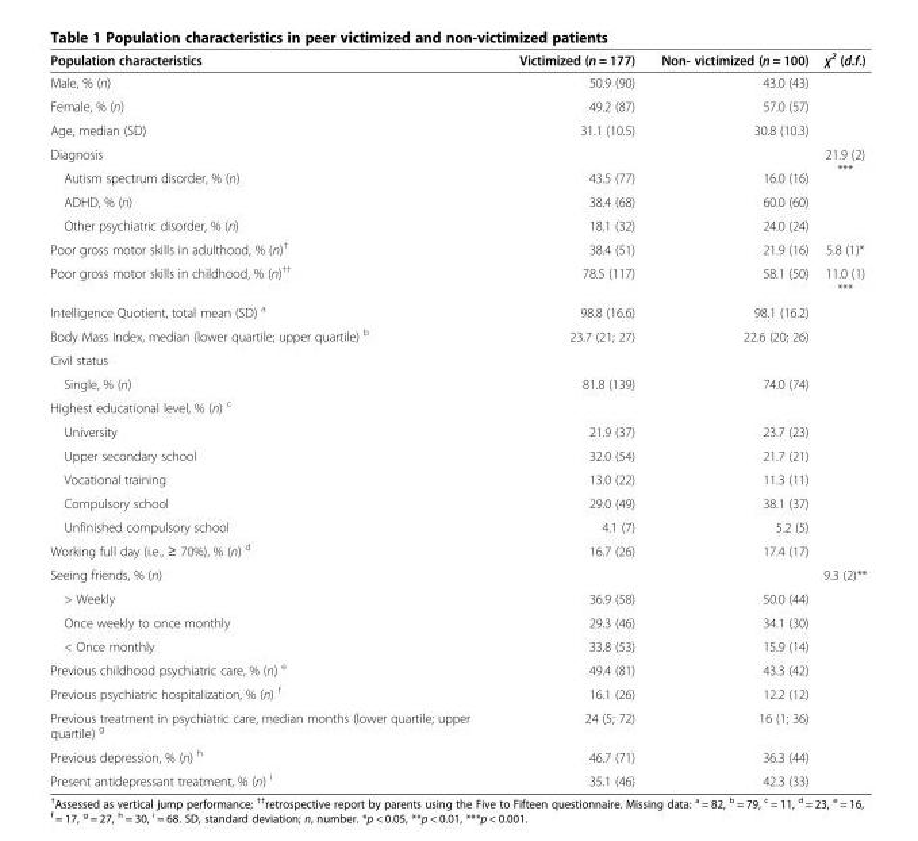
<table><thead><tr><td>Population characteristics</td><td>Victimized (n = 177)</td><td>Non- victimized (n = 100)</td><td>χ<sup>2</sup> (d.f.)</td></tr></thead><tbody><tr><td>Male, % (n)</td><td>50.9 (90)</td><td>43.0 (43)</td><td></td></tr><tr><td>Female, % (n)</td><td>49.2 (87)</td><td>57.0 (57)</td><td></td></tr><tr><td>Age, median (SD)</td><td>31.1 (10.5)</td><td>30.8 (10.3)</td><td></td></tr><tr><td colspan="3">Diagnosis</td><td rowspan="4">21.9 (2) ***</td></tr><tr><td>Autism spectrum disorder, % (n)</td><td>43.5 (77)</td><td>16.0 (16)</td></tr><tr><td>ADHD, % (n)</td><td>38.4 (68)</td><td>60.0 (60)</td></tr><tr><td>Other psychiatric disorder, % (n)</td><td>18.1 (32)</td><td>24.0 (24)</td></tr><tr><td>Poor gross motor skills in adulthood, % (n)<sup>†</sup></td><td>38.4 (51)</td><td>21.9 (16)</td><td>5.8 (1)*</td></tr><tr><td>Poor gross motor skills in childhood, % (n)<sup>††</sup></td><td>78.5 (117)</td><td>58.1 (50)</td><td>11.0 (1) ***</td></tr><tr><td>Intelligence Quotient, total mean (SD) <sup>a</sup></td><td>98.8 (16.6)</td><td>98.1 (16.2)</td><td></td></tr><tr><td>Body Mass Index, median (lower quartile; upper quartile) <sup>b</sup></td><td>23.7 (21; 27)</td><td>22.6 (20; 26)</td><td></td></tr><tr><td colspan="4">Civil status</td></tr><tr><td>Single, % (n)</td><td>81.8 (139)</td><td>74.0 (74)</td><td></td></tr><tr><td colspan="4">Highest educational level, % (n) <sup>c</sup></td></tr><tr><td>University</td><td>21.9 (37)</td><td>23.7 (23)</td><td></td></tr><tr><td>Upper secondary school</td><td>32.0 (54)</td><td>21.7 (21)</td><td></td></tr><tr><td>Vocational training</td><td>13.0 (22)</td><td>11.3 (11)</td><td></td></tr><tr><td>Compulsory school</td><td>29.0 (49)</td><td>38.1 (37)</td><td></td></tr><tr><td>Unfinished compulsory school</td><td>4.1 (7)</td><td>5.2 (5)</td><td></td></tr><tr><td>Working full day (i.e., ≥ 70%), % (n) <sup>d</sup></td><td>16.7 (26)</td><td>17.4 (17)</td><td></td></tr><tr><td>Seeing friends, % (n)</td><td></td><td></td><td>9.3 (2)**</td></tr><tr><td>&gt; Weekly</td><td>36.9 (58)</td><td>50.0 (44)</td><td></td></tr><tr><td>Once weekly to once monthly</td><td>29.3 (46)</td><td>34.1 (30)</td><td></td></tr><tr><td>&lt; Once monthly</td><td>33.8 (53)</td><td>15.9 (14)</td><td></td></tr><tr><td>Previous childhood psychiatric care, % (n) <sup>e</sup></td><td>49.4 (81)</td><td>43.3 (42)</td><td></td></tr><tr><td>Previous psychiatric hospitalization, % (n) <sup>f</sup></td><td>16.1 (26)</td><td>12.2 (12)</td><td></td></tr><tr><td>Previous treatment in psychiatric care, median months (lower quartile; upper quartile) <sup>g</sup></td><td>24 (5; 72)</td><td>16 (1; 36)</td><td></td></tr><tr><td>Previous depression, % (n) <sup>h</sup></td><td>46.7 (71)</td><td>36.3 (44)</td><td></td></tr><tr><td>Present antidepressant treatment, % (n) <sup>i</sup></td><td>35.1 (46)</td><td>42.3 (33)</td><td></td></tr></tbody></table>